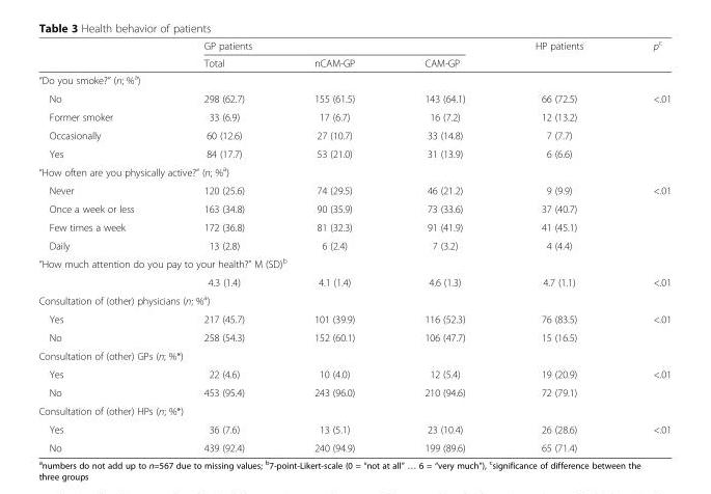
<table><thead><tr><td rowspan="2"></td><td colspan="3">GP patients</td><td rowspan="2">HP patients</td><td rowspan="2">p<sup>c</sup></td></tr><tr><td>Total</td><td>nCAM-GP</td><td>CAM-GP</td></tr></thead><tbody><tr><td colspan="6">“Do you smoke?” (n; %<sup>a</sup>)</td></tr><tr><td>No</td><td>298 (62.7)</td><td>155 (61.5)</td><td>143 (64.1)</td><td>66 (72.5)</td><td rowspan="4">&lt;.01</td></tr><tr><td>Former smoker</td><td>33 (6.9)</td><td>17 (6.7)</td><td>16 (7.2)</td><td>12 (13.2)</td></tr><tr><td>Occasionally</td><td>60 (12.6)</td><td>27 (10.7)</td><td>33 (14.8)</td><td>7 (7.7)</td></tr><tr><td>Yes</td><td>84 (17.7)</td><td>53 (21.0)</td><td>31 (13.9)</td><td>6 (6.6)</td></tr><tr><td colspan="6">“How often are you physically active?” (n; %<sup>a</sup>)</td></tr><tr><td>Never</td><td>120 (25.6)</td><td>74 (29.5)</td><td>46 (21.2)</td><td>9 (9.9)</td><td rowspan="4">&lt;.01</td></tr><tr><td>Once a week or less</td><td>163 (34.8)</td><td>90 (35.9)</td><td>73 (33.6)</td><td>37 (40.7)</td></tr><tr><td>Few times a week</td><td>172 (36.8)</td><td>81 (32.3)</td><td>91 (41.9)</td><td>41 (45.1)</td></tr><tr><td>Daily</td><td>13 (2.8)</td><td>6 (2.4)</td><td>7 (3.2)</td><td>4 (4.4)</td></tr><tr><td colspan="6">“How much attention do you pay to your health?” M (SD)<sup>b</sup></td></tr><tr><td></td><td>4.3 (1.4)</td><td>4.1 (1.4)</td><td>4.6 (1.3)</td><td>4.7 (1.1)</td><td>&lt;.01</td></tr><tr><td colspan="6">Consultation of (other) physicians (n; %<sup>a</sup>)</td></tr><tr><td>Yes</td><td>217 (45.7)</td><td>101 (39.9)</td><td>116 (52.3)</td><td>76 (83.5)</td><td rowspan="2">&lt;.01</td></tr><tr><td>No</td><td>258 (54.3)</td><td>152 (60.1)</td><td>106 (47.7)</td><td>15 (16.5)</td></tr><tr><td colspan="6">Consultation of (other) GPs (n; %*)</td></tr><tr><td>Yes</td><td>22 (4.6)</td><td>10 (4.0)</td><td>12 (5.4)</td><td>19 (20.9)</td><td rowspan="2">&lt;.01</td></tr><tr><td>No</td><td>453 (95.4)</td><td>243 (96.0)</td><td>210 (94.6)</td><td>72 (79.1)</td></tr><tr><td colspan="6">Consultation of (other) HPs (n; %*)</td></tr><tr><td>Yes</td><td>36 (7.6)</td><td>13 (5.1)</td><td>23 (10.4)</td><td>26 (28.6)</td><td rowspan="2">&lt;.01</td></tr><tr><td>No</td><td>439 (92.4)</td><td>240 (94.9)</td><td>199 (89.6)</td><td>65 (71.4)</td></tr></tbody></table>